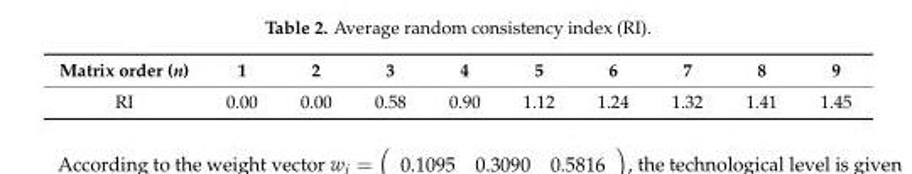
<table><thead><tr><td>Matrix order (n)</td><td>1</td><td>2</td><td>3</td><td>4</td><td>5</td><td>6</td><td>7</td><td>8</td><td>9</td></tr></thead><tbody><tr><td>RI</td><td>0.00</td><td>0.00</td><td>0.58</td><td>0.90</td><td>1.12</td><td>1.24</td><td>1.32</td><td>1.41</td><td>1.45</td></tr></tbody></table>